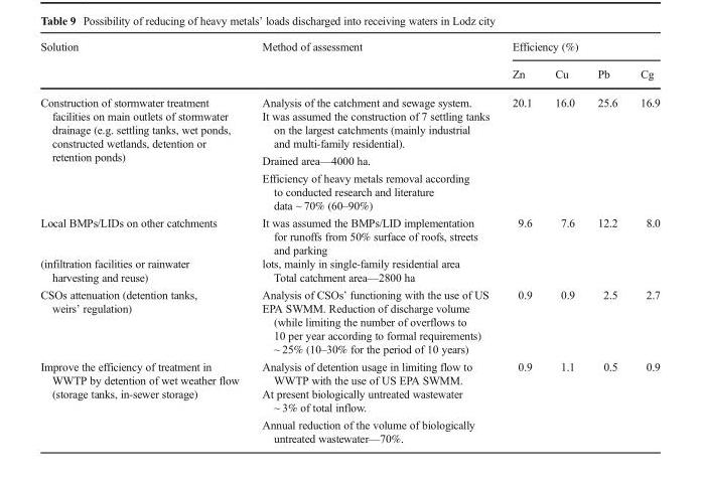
<table><thead><tr><td rowspan="2">Solution</td><td rowspan="2">Method of assessment</td><td colspan="4">Efficiency (%)</td></tr><tr><td>Zn</td><td>Cu</td><td>Pb</td><td>Cg</td></tr></thead><tbody><tr><td rowspan="4">Construction of stormwater treatment facilities on main outlets of stormwater drainage (e.g. settling tanks, wet ponds, constructed wetlands, detention or retention ponds)</td><td>Analysis of the catchment and sewage system.</td><td rowspan="4">20.1</td><td rowspan="4">16.0</td><td rowspan="4">25.6</td><td rowspan="4">16.9</td></tr><tr><td>It was assumed the construction of 7 settling tanks on the largest catchments (mainly industrial and multi-family residential).</td></tr><tr><td>Drained area—4000 ha.</td></tr><tr><td>Efficiency of heavy metals removal according to conducted research and literature data ~ 70% (60–90%)</td></tr><tr><td>Local BMPs/LIDs on other catchments</td><td>It was assumed the BMPs/LID implementation for runoffs from 50% surface of roofs, streets and parking</td><td rowspan="2">9.6</td><td rowspan="2">7.6</td><td rowspan="2">12.2</td><td rowspan="2">8.0</td></tr><tr><td>(infiltration facilities or rainwater harvesting and reuse)</td><td>lots, mainly in single-family residential area Total catchment area—2800 ha</td></tr><tr><td rowspan="2">CSOs attenuation (detention tanks, weirs’ regulation)</td><td>Analysis of CSOs’ functioning with the use of US</td><td rowspan="2">0.9</td><td rowspan="2">0.9</td><td rowspan="2">2.5</td><td rowspan="2">2.7</td></tr><tr><td>EPA SWMM. Reduction of discharge volume (while limiting the number of overflows to 10 per year according to formal requirements) ~ 25% (10–30% for the period of 10 years)</td></tr><tr><td rowspan="3">Improve the efficiency of treatment in WWTP by detention of wet weather flow (storage tanks, in-sewer storage)</td><td>Analysis of detention usage in limiting flow to WWTP with the use of US EPA SWMM.</td><td rowspan="3">0.9</td><td rowspan="3">1.1</td><td rowspan="3">0.5</td><td rowspan="3">0.9</td></tr><tr><td>At present biologically untreated wastewater ~ 3% of total inflow.</td></tr><tr><td>Annual reduction of the volume of biologically untreated wastewater—70%.</td></tr></tbody></table>